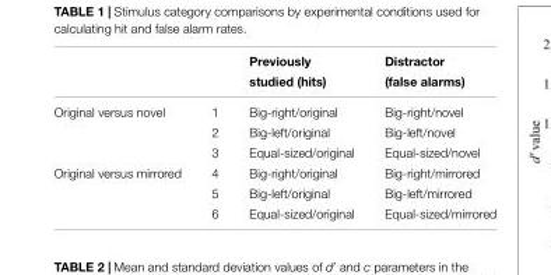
<table><thead><tr><td rowspan="2"></td><td rowspan="2"></td><td rowspan="2">Previously studied (hits)</td><td rowspan="2">Distractor (false alarms)</td></tr><tr></tr></thead><tbody><tr><td rowspan="3">Original versus novel</td><td>1</td><td>Big-right/original</td><td>Big-right/novel</td></tr><tr><td>2</td><td>Big-left/original</td><td>Big-left/novel</td></tr><tr><td>3</td><td>Equal-sized/original</td><td>Equal-sized/novel</td></tr><tr><td rowspan="3">Original versus mirrored</td><td>4</td><td>Big-right/original</td><td>Big-right/mirrored</td></tr><tr><td>5</td><td>Big-left/original</td><td>Big-left/mirrored</td></tr><tr><td>6</td><td>Equal-sized/original</td><td>Equal-sized/mirrored</td></tr></tbody></table>